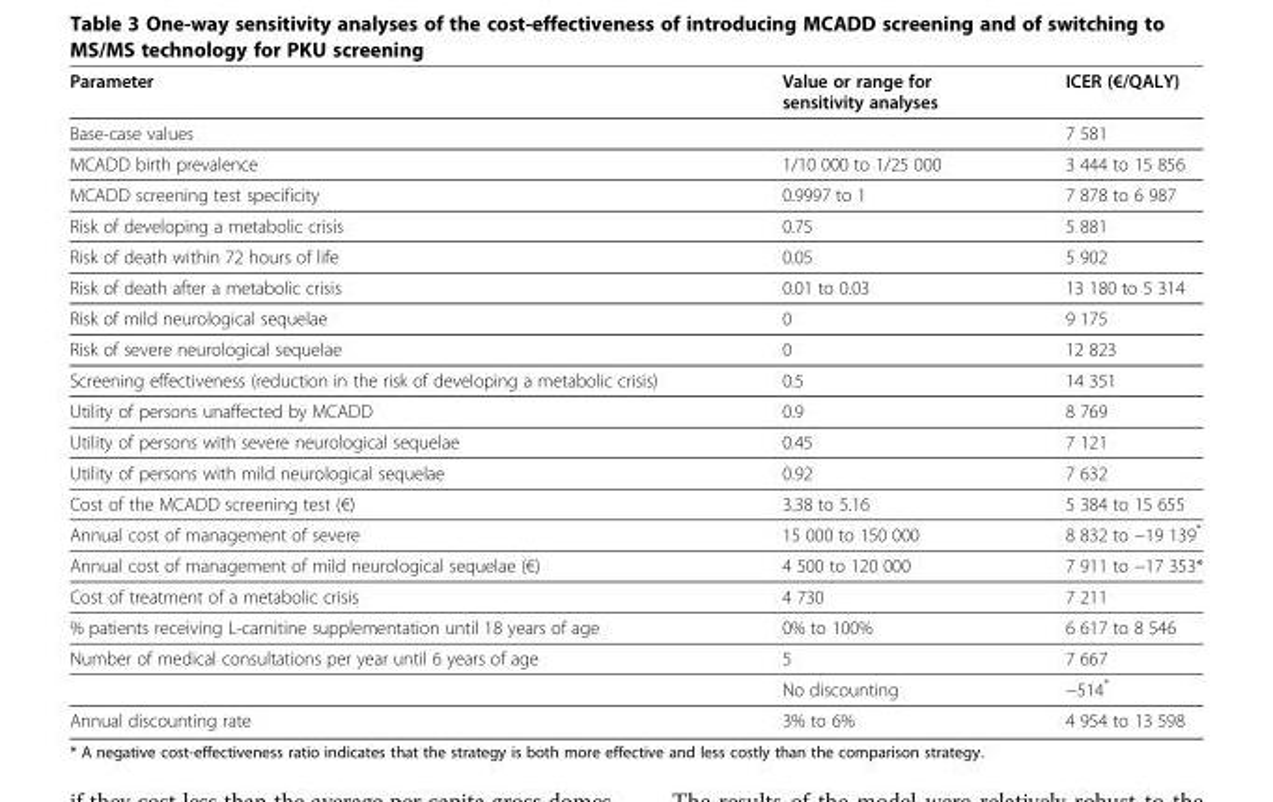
<table><thead><tr><td>Parameter</td><td>Value or range for sensitivity analyses</td><td>ICER (€/QALY)</td></tr></thead><tbody><tr><td>Base-case values</td><td></td><td>7 581</td></tr><tr><td>MCADD birth prevalence</td><td>1/10 000 to 1/25 000</td><td>3 444 to 15 856</td></tr><tr><td>MCADD screening test specificity</td><td>0.9997 to 1</td><td>7 878 to 6 987</td></tr><tr><td>Risk of developing a metabolic crisis</td><td>0.75</td><td>5 881</td></tr><tr><td>Risk of death within 72 hours of life</td><td>0.05</td><td>5 902</td></tr><tr><td>Risk of death after a metabolic crisis</td><td>0.01 to 0.03</td><td>13 180 to 5 314</td></tr><tr><td>Risk of mild neurological sequelae</td><td>0</td><td>9 175</td></tr><tr><td>Risk of severe neurological sequelae</td><td>0</td><td>12 823</td></tr><tr><td>Screening effectiveness (reduction in the risk of developing a metabolic crisis)</td><td>0.5</td><td>14 351</td></tr><tr><td>Utility of persons unaffected by MCADD</td><td>0.9</td><td>8 769</td></tr><tr><td>Utility of persons with severe neurological sequelae</td><td>0.45</td><td>7 121</td></tr><tr><td>Utility of persons with mild neurological sequelae</td><td>0.92</td><td>7 632</td></tr><tr><td>Cost of the MCADD screening test (€)</td><td>3.38 to 5.16</td><td>5 384 to 15 655</td></tr><tr><td>Annual cost of management of severe</td><td>15 000 to 150 000</td><td>8 832 to −19 139*</td></tr><tr><td>Annual cost of management of mild neurological sequelae (€)</td><td>4 500 to 120 000</td><td>7 911 to −17 353*</td></tr><tr><td>Cost of treatment of a metabolic crisis</td><td>4 730</td><td>7 211</td></tr><tr><td>% patients receiving L-carnitine supplementation until 18 years of age</td><td>0% to 100%</td><td>6 617 to 8 546</td></tr><tr><td rowspan="2">Number of medical consultations per year until 6 years of age</td><td>5</td><td>7 667</td></tr><tr><td>No discounting</td><td>−514*</td></tr><tr><td>Annual discounting rate</td><td>3% to 6%</td><td>4 954 to 13 598</td></tr></tbody></table>